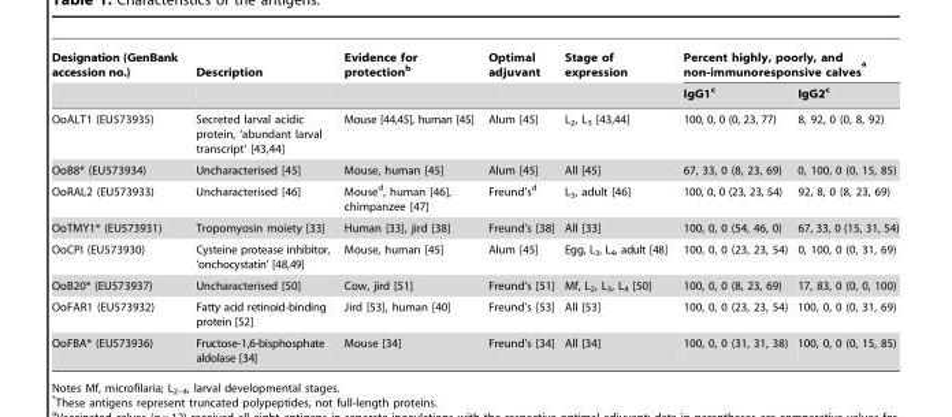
<table><thead><tr><td rowspan="2">Designation (GenBank accession no.)</td><td rowspan="2">Description</td><td rowspan="2">Evidence for protection<sup>b</sup></td><td rowspan="2">Optimal adjuvant</td><td rowspan="2">Stage of expression</td><td colspan="2">Percent highly, poorly, and non-immunoresponsive calves <sup>a</sup></td></tr><tr><td>IgG1<sup>c</sup></td><td>IgG2<sup>c</sup></td></tr></thead><tbody><tr><td>OoALT1 (EU573935)</td><td>Secreted larval acidic protein, ‘abundant larval transcript’ [43,44]</td><td>Mouse [44,45], human [45]</td><td>Alum [45]</td><td>L2, L3 [43,44]</td><td>100, 0, 0 (0, 23, 77)</td><td>8, 92, 0 (0, 8, 92)</td></tr><tr><td>OoB8* (EU573934)</td><td>Uncharacterised [45]</td><td>Mouse, human [45]</td><td>Alum [45]</td><td>All [45]</td><td>67, 33, 0 (8, 23, 69)</td><td>0, 100, 0 (0, 15, 85)</td></tr><tr><td>OoRAL2 (EU573933)</td><td>Uncharacterised [46]</td><td>Mouse<sup>d</sup>, human [46], chimpanzee [47]</td><td>Freund’s<sup>d</sup></td><td>L<sub>3</sub>, adult [46]</td><td>100, 0, 0 (23, 23, 54)</td><td>92, 8, 0 (8, 23, 69)</td></tr><tr><td>OoTMY1* (EU573931)</td><td>Tropomyosin moiety [33]</td><td>Human [33], jird [38]</td><td>Freund’s [38]</td><td>All [33]</td><td>100, 0, 0 (54, 46, 0)</td><td>67, 33, 0 (15, 31, 54)</td></tr><tr><td>OoCPI (EU573930)</td><td>Cysteine protease inhibitor, ‘onchocystatin’ [48,49]</td><td>Mouse, human [45]</td><td>Alum [45]</td><td>Egg, L<sub>3</sub>, L<sub>4</sub>, adult [48]</td><td>100, 0, 0 (23, 23, 54)</td><td>0, 100, 0 (0, 31, 69)</td></tr><tr><td>OoB20* (EU573937)</td><td>Uncharacterised [50]</td><td>Cow, jird [51]</td><td>Freund’s [51]</td><td>Mf, L<sub>2</sub>, L<sub>3</sub>, L<sub>4</sub> [50]</td><td>100, 0, 0 (8, 23, 69)</td><td>17, 83, 0 (0, 0, 100)</td></tr><tr><td>OoFAR1 (EU573932)</td><td>Fatty acid retinoid-binding protein [52]</td><td>Jird [53], human [40]</td><td>Freund’s [53]</td><td>All [53]</td><td>100, 0, 0 (23, 23, 54)</td><td>100, 0, 0 (0, 31, 69)</td></tr><tr><td>OoFBA* (EU573936)</td><td>Fructose-1,6-bisphosphate aldolase [34]</td><td>Mouse [34]</td><td>Freund’s [34]</td><td>All [34]</td><td>100, 0, 0 (31, 31, 38)</td><td>100, 0, 0 (0, 15, 85)</td></tr></tbody></table>